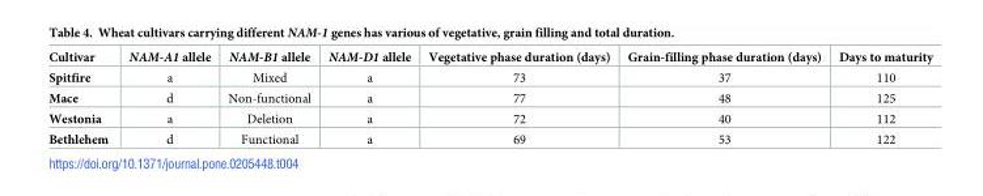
<table><thead><tr><td>Cultivar</td><td>NAM-A1 allele</td><td>NAM-B1 allele</td><td>NAM-D1 allele</td><td>Vegetative phase duration (days)</td><td>Grain-filling phase duration (days)</td><td>Days to maturity</td></tr></thead><tbody><tr><td>Spitfire</td><td>a</td><td>Mixed</td><td>a</td><td>73</td><td>37</td><td>110</td></tr><tr><td>Mace</td><td>d</td><td>Non-functional</td><td>a</td><td>77</td><td>48</td><td>125</td></tr><tr><td>Westonia</td><td>a</td><td>Deletion</td><td>a</td><td>72</td><td>40</td><td>112</td></tr><tr><td>Bethlehem</td><td>d</td><td>Functional</td><td>a</td><td>69</td><td>53</td><td>122</td></tr></tbody></table>